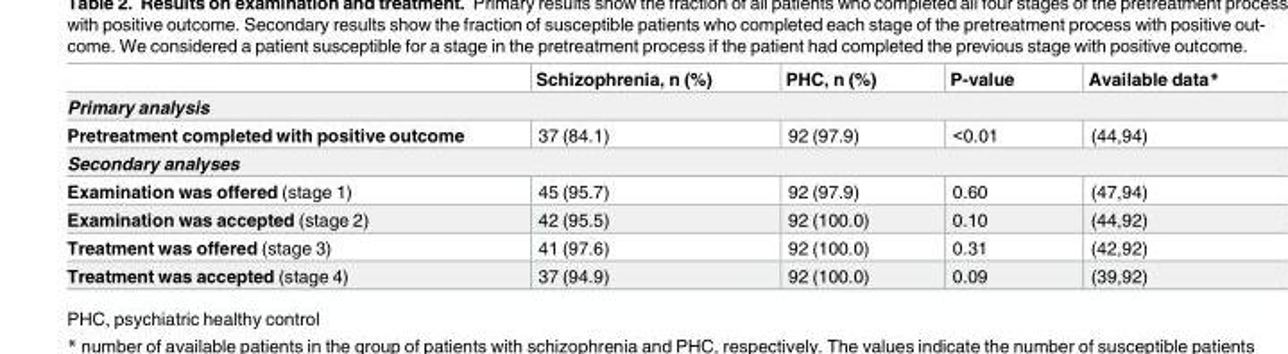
<table><thead><tr><td></td><td>Schizophrenia, n (%)</td><td>PHC, n (%)</td><td>P-value</td><td>Available data*</td></tr></thead><tbody><tr><td colspan="5">Primary analysis</td></tr><tr><td>Pretreatment completed with positive outcome</td><td>37 (84.1)</td><td>92 (97.9)</td><td>&lt;0.01</td><td>(44,94)</td></tr><tr><td colspan="5">Secondary analyses</td></tr><tr><td>Examination was offered (stage 1)</td><td>45 (95.7)</td><td>92 (97.9)</td><td>0.60</td><td>(47,94)</td></tr><tr><td>Examination was accepted (stage 2)</td><td>42 (95.5)</td><td>92 (100.0)</td><td>0.10</td><td>(44,92)</td></tr><tr><td>Treatment was offered (stage 3)</td><td>41 (97.6)</td><td>92 (100.0)</td><td>0.31</td><td>(42,92)</td></tr><tr><td>Treatment was accepted (stage 4)</td><td>37 (94.9)</td><td>92 (100.0)</td><td>0.09</td><td>(39,92)</td></tr></tbody></table>